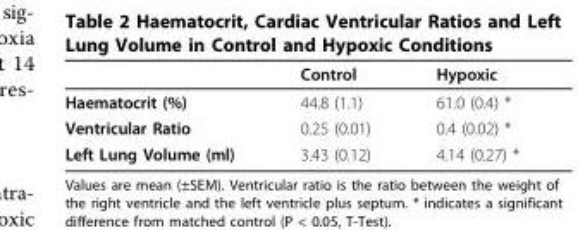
<table><thead><tr><td></td><td>Control</td><td>Hypoxic</td></tr></thead><tbody><tr><td>Haematocrit (%)</td><td>44.8 (1.1)</td><td>61.0 (0.4) *</td></tr><tr><td>Ventricular Ratio</td><td>0.25 (0.01)</td><td>0.4 (0.02) *</td></tr><tr><td>Left Lung Volume (ml)</td><td>3.43 (0.12)</td><td>4.14 (0.27) *</td></tr></tbody></table>